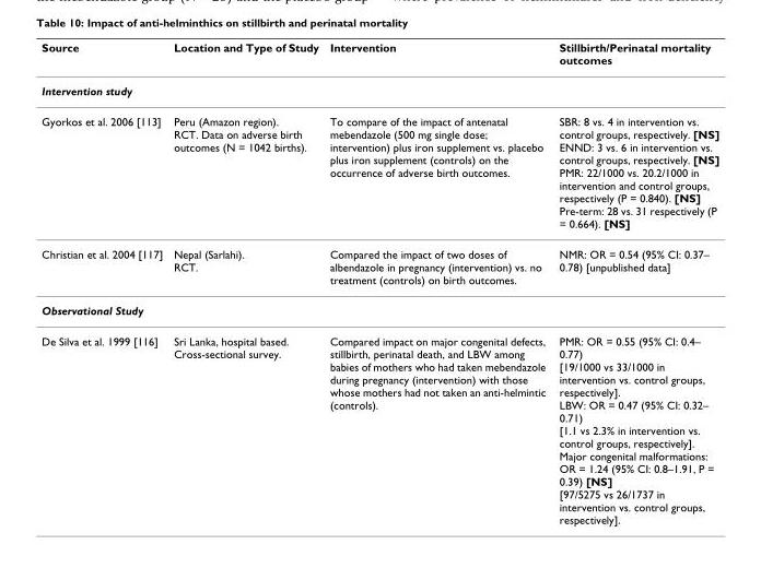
<table><thead><tr><td>Source</td><td>Location and Type of Study</td><td>Intervention</td><td>Stillbirth/Perinatal mortality outcomes</td></tr></thead><tbody><tr><td colspan="4">Intervention study</td></tr><tr><td>Gyorkos et al. 2006 [113]</td><td>Peru (Amazon region). RCT. Data on adverse birth outcomes (N = 1042 births).</td><td>To compare of the impact of antenatal mebendazole (500 mg single dose; intervention) plus iron supplement vs. placebo plus iron supplement (controls) on the occurrence of adverse birth outcomes.</td><td>SBR: 8 vs. 4 in intervention vs. control groups, respectively. [NS] ENND: 3 vs. 6 in intervention vs. control groups, respectively. [NS] PMR: 22/1000 vs. 20.2/1000 in intervention and control groups, respectively (P = 0.840). [NS] Pre-term: 28 vs. 31 respectively (P = 0.664). [NS]</td></tr><tr><td>Christian et al. 2004 [117]</td><td>Nepal (Sarlahi). RCT.</td><td>Compared the impact of two doses of albendazole in pregnancy (intervention) vs. no treatment (controls) on birth outcomes.</td><td>NMR: OR = 0.54 (95% CI: 0.37– 0.78) [unpublished data]</td></tr><tr><td colspan="4">Observational Study</td></tr><tr><td>De Silva et al. 1999 [116]</td><td>Sri Lanka, hospital based. Cross-sectional survey.</td><td>Compared impact on major congenital defects, stillbirth, perinatal death, and LBW among babies of mothers who had taken mebendazole during pregnancy (intervention) with those whose mothers had not taken an anti-helmintic (controls).</td><td>PMR: OR = 0.55 (95% CI: 0.4– 0.77) [19/1000 vs 33/1000 in intervention vs. control groups, respectively]. LBW: OR = 0.47 (95% CI: 0.32– 0.71) [1.1 vs 2.3% in intervention vs. control groups, respectively]. Major congenital malformations: OR = 1.24 (95% CI: 0.8–1.91, P = 0.39) [NS] [97/5275 vs 26/1737 in intervention vs. control groups, respectively].</td></tr></tbody></table>